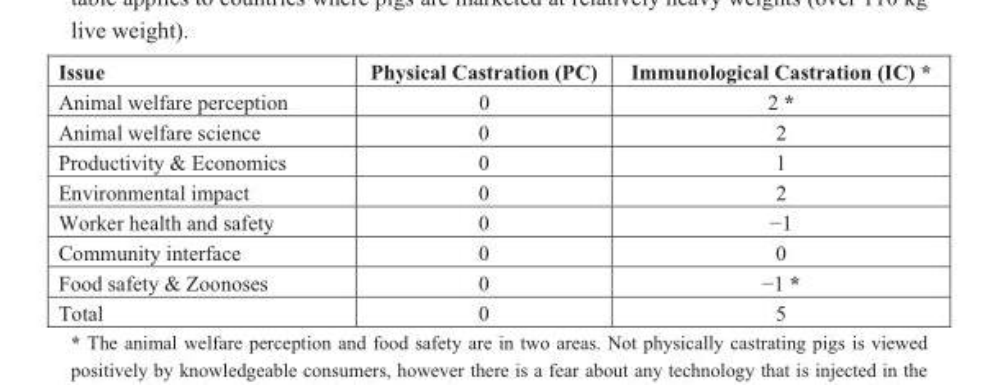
<table><thead><tr><td>Issue</td><td>Physical Castration (PC)</td><td>Immunological Castration (IC) *</td></tr></thead><tbody><tr><td>Animal welfare perception</td><td>0</td><td>2 *</td></tr><tr><td>Animal welfare science</td><td>0</td><td>2</td></tr><tr><td>Productivity &amp; Economics</td><td>0</td><td>1</td></tr><tr><td>Environmental impact</td><td>0</td><td>2</td></tr><tr><td>Worker health and safety</td><td>0</td><td>−1</td></tr><tr><td>Community interface</td><td>0</td><td>0</td></tr><tr><td>Food safety &amp; Zoonoses</td><td>0</td><td>−1 *</td></tr><tr><td>Total</td><td>0</td><td>5</td></tr></tbody></table>